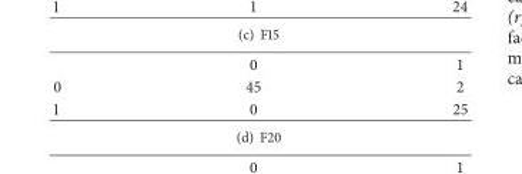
<table><thead><tr><td></td><td>0</td><td>1</td></tr></thead><tbody><tr><td>0</td><td>45</td><td>2</td></tr><tr><td>1</td><td>0</td><td>25</td></tr></tbody></table>